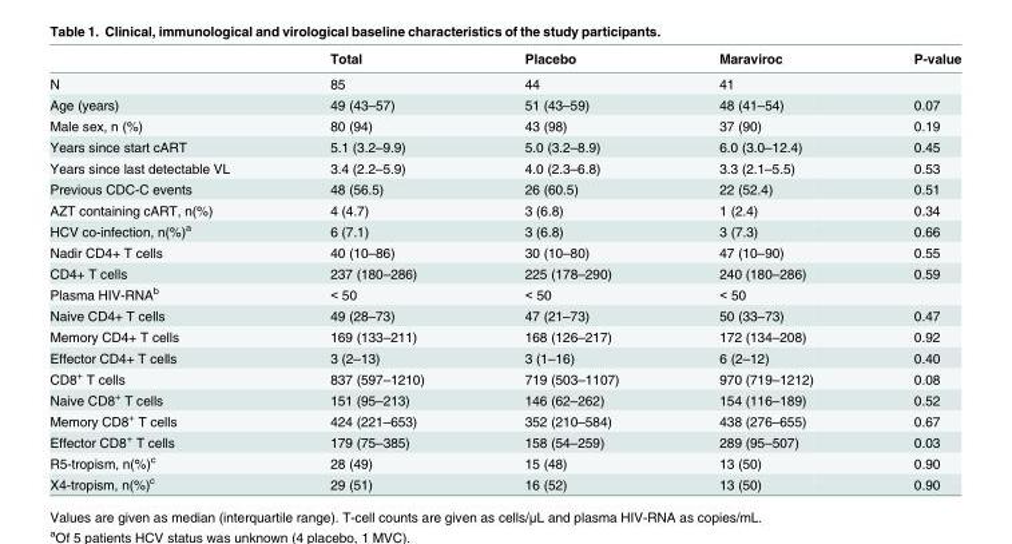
<table><thead><tr><td></td><td>Total</td><td>Placebo</td><td>Maraviroc</td><td>P-value</td></tr></thead><tbody><tr><td>N</td><td>85</td><td>44</td><td>41</td><td></td></tr><tr><td>Age (years)</td><td>49 (43–57)</td><td>51 (43–59)</td><td>48 (41–54)</td><td>0.07</td></tr><tr><td>Male sex, n (%)</td><td>80 (94)</td><td>43 (98)</td><td>37 (90)</td><td>0.19</td></tr><tr><td>Years since start cART</td><td>5.1 (3.2–9.9)</td><td>5.0 (3.2–8.9)</td><td>6.0 (3.0–12.4)</td><td>0.45</td></tr><tr><td>Years since last detectable VL</td><td>3.4 (2.2–5.9)</td><td>4.0 (2.3–6.8)</td><td>3.3 (2.1–5.5)</td><td>0.53</td></tr><tr><td>Previous CDC-C events</td><td>48 (56.5)</td><td>26 (60.5)</td><td>22 (52.4)</td><td>0.51</td></tr><tr><td>AZT containing cART, n(%)</td><td>4 (4.7)</td><td>3 (6.8)</td><td>1 (2.4)</td><td>0.34</td></tr><tr><td>HCV co-infection, n(%)<sup>a</sup></td><td>6 (7.1)</td><td>3 (6.8)</td><td>3 (7.3)</td><td>0.66</td></tr><tr><td>Nadir CD4+ T cells</td><td>40 (10–86)</td><td>30 (10–80)</td><td>47 (10–90)</td><td>0.55</td></tr><tr><td>CD4+ T cells</td><td>237 (180–286)</td><td>225 (178–290)</td><td>240 (180–286)</td><td>0.59</td></tr><tr><td>Plasma HIV-RNA<sup>b</sup></td><td>&lt; 50</td><td>&lt; 50</td><td>&lt; 50</td><td></td></tr><tr><td>Naive CD4+ T cells</td><td>49 (28–73)</td><td>47 (21–73)</td><td>50 (33–73)</td><td>0.47</td></tr><tr><td>Memory CD4+ T cells</td><td>169 (133–211)</td><td>168 (126–217)</td><td>172 (134–208)</td><td>0.92</td></tr><tr><td>Effector CD4+ T cells</td><td>3 (2–13)</td><td>3 (1–16)</td><td>6 (2–12)</td><td>0.40</td></tr><tr><td>CD8<sup>+</sup> T cells</td><td>837 (597–1210)</td><td>719 (503–1107)</td><td>970 (719–1212)</td><td>0.08</td></tr><tr><td>Naive CD8<sup>+</sup> T cells</td><td>151 (95–213)</td><td>146 (62–262)</td><td>154 (116–189)</td><td>0.52</td></tr><tr><td>Memory CD8<sup>+</sup> T cells</td><td>424 (221–653)</td><td>352 (210–584)</td><td>438 (276–655)</td><td>0.67</td></tr><tr><td>Effector CD8<sup>+</sup> T cells</td><td>179 (75–385)</td><td>158 (54–259)</td><td>289 (95–507)</td><td>0.03</td></tr><tr><td>R5-tropism, n(%)<sup>c</sup></td><td>28 (49)</td><td>15 (48)</td><td>13 (50)</td><td>0.90</td></tr><tr><td>X4-tropism, n(%)<sup>c</sup></td><td>29 (51)</td><td>16 (52)</td><td>13 (50)</td><td>0.90</td></tr></tbody></table>